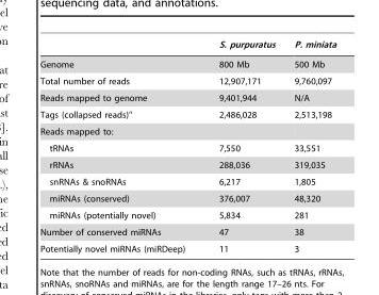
<table><thead><tr><td></td><td>S. purpuratus</td><td>P. miniata</td></tr></thead><tbody><tr><td>Genome</td><td>800 Mb</td><td>500 Mb</td></tr><tr><td>Total number of reads</td><td>12,907,171</td><td>9,760,097</td></tr><tr><td>Reads mapped to genome</td><td>9,401,944</td><td>N/A</td></tr><tr><td>Tags (collapsed reads)’’</td><td>2,486,028</td><td>2,513,198</td></tr><tr><td colspan="3">Reads mapped to:</td></tr><tr><td>tRNAs</td><td>7,550</td><td>33,551</td></tr><tr><td>rRNAs</td><td>288,036</td><td>319,035</td></tr><tr><td>snRNAs &amp; snoRNAs</td><td>6,217</td><td>1,805</td></tr><tr><td>miRNAs (conserved)</td><td>376,007</td><td>48,320</td></tr><tr><td>miRNAs (potentially novel)</td><td>5,834</td><td>281</td></tr><tr><td>Number of conserved miRNAs</td><td>47</td><td>38</td></tr><tr><td>Potentially novel miRNAs (miRDeep)</td><td>11</td><td>3</td></tr></tbody></table>